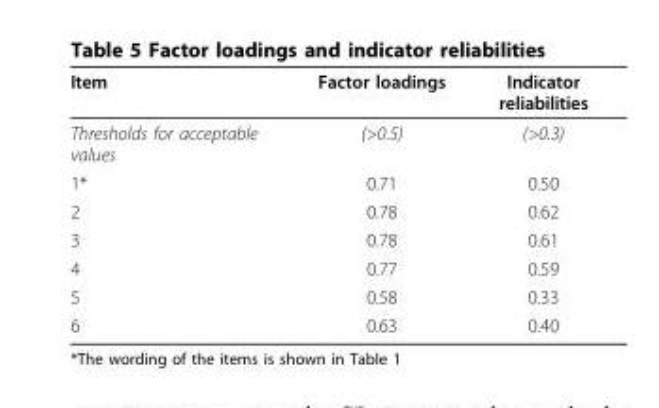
<table><thead><tr><td rowspan="2">Item Thresholds for acceptable values</td><td rowspan="2">Factor loadings (&gt;0.5)</td><td rowspan="2">Indicator reliabilities (&gt;0.3)</td></tr><tr></tr></thead><tbody><tr><td>1*</td><td>0.71</td><td>0.50</td></tr><tr><td>2</td><td>0.78</td><td>0.62</td></tr><tr><td>3</td><td>0.78</td><td>0.61</td></tr><tr><td>4</td><td>0.77</td><td>0.59</td></tr><tr><td>5</td><td>0.58</td><td>0.33</td></tr><tr><td>6</td><td>0.63</td><td>0.40</td></tr></tbody></table>